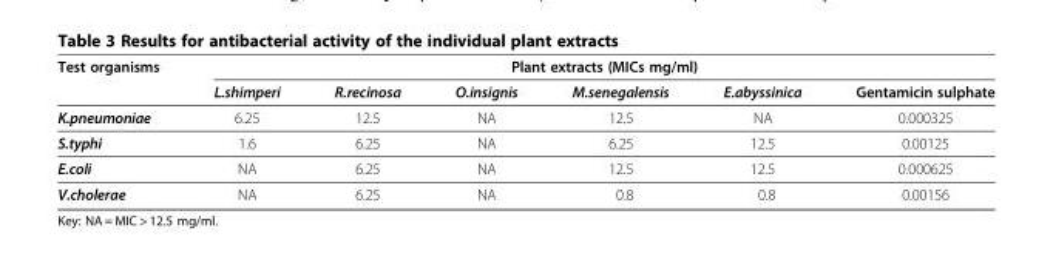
<table><thead><tr><td rowspan="2">Test organisms</td><td colspan="6">Plant extracts (MICs mg/ml)</td></tr><tr><td>L.shimperi</td><td>R.recinosa</td><td>O.insignis</td><td>M.senegalensis</td><td>E.abyssinica</td><td>Gentamicin sulphate</td></tr></thead><tbody><tr><td>K.pneumoniae</td><td>6.25</td><td>12.5</td><td>NA</td><td>12.5</td><td>NA</td><td>0.000325</td></tr><tr><td>S.typhi</td><td>1.6</td><td>6.25</td><td>NA</td><td>6.25</td><td>12.5</td><td>0.00125</td></tr><tr><td>E.coli</td><td>NA</td><td>6.25</td><td>NA</td><td>12.5</td><td>12.5</td><td>0.000625</td></tr><tr><td>V.cholerae</td><td>NA</td><td>6.25</td><td>NA</td><td>0.8</td><td>0.8</td><td>0.00156</td></tr></tbody></table>